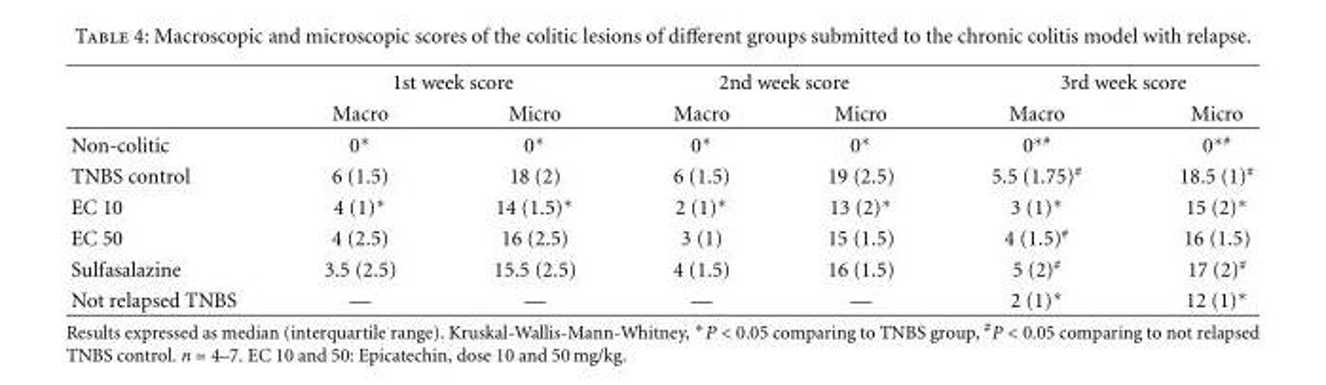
<table><thead><tr><td rowspan="2"></td><td colspan="2">1st week score</td><td colspan="2">2nd week score</td><td colspan="2">3rd week score</td></tr><tr><td>Macro</td><td>Micro</td><td>Macro</td><td>Micro</td><td>Macro</td><td>Micro</td></tr></thead><tbody><tr><td>Non-colitic</td><td>0∗</td><td>0∗</td><td>0∗</td><td>0∗</td><td>0<sup>∗#</sup></td><td>0<sup>∗#</sup></td></tr><tr><td>TNBS control</td><td>6 (1.5)</td><td>18 (2)</td><td>6 (1.5)</td><td>19 (2.5)</td><td>5.5 (1.75)<sup>#</sup></td><td>18.5 (1)<sup>#</sup></td></tr><tr><td>EC 10</td><td>4 (1)∗</td><td>14 (1.5)∗</td><td>2 (1)∗</td><td>13 (2)∗</td><td>3 (1)∗</td><td>15 (2)∗</td></tr><tr><td>EC 50</td><td>4 (2.5)</td><td>16 (2.5)</td><td>3 (1)</td><td>15 (1.5)</td><td>4 (1.5)<sup>#</sup></td><td>16 (1.5)</td></tr><tr><td>Sulfasalazine</td><td>3.5 (2.5)</td><td>15.5 (2.5)</td><td>4 (1.5)</td><td>16 (1.5)</td><td>5 (2)<sup>#</sup></td><td>17 (2)<sup>#</sup></td></tr><tr><td>Not relapsed TNBS</td><td>—</td><td>—</td><td>—</td><td>—</td><td>2 (1)∗</td><td>12 (1)∗</td></tr></tbody></table>